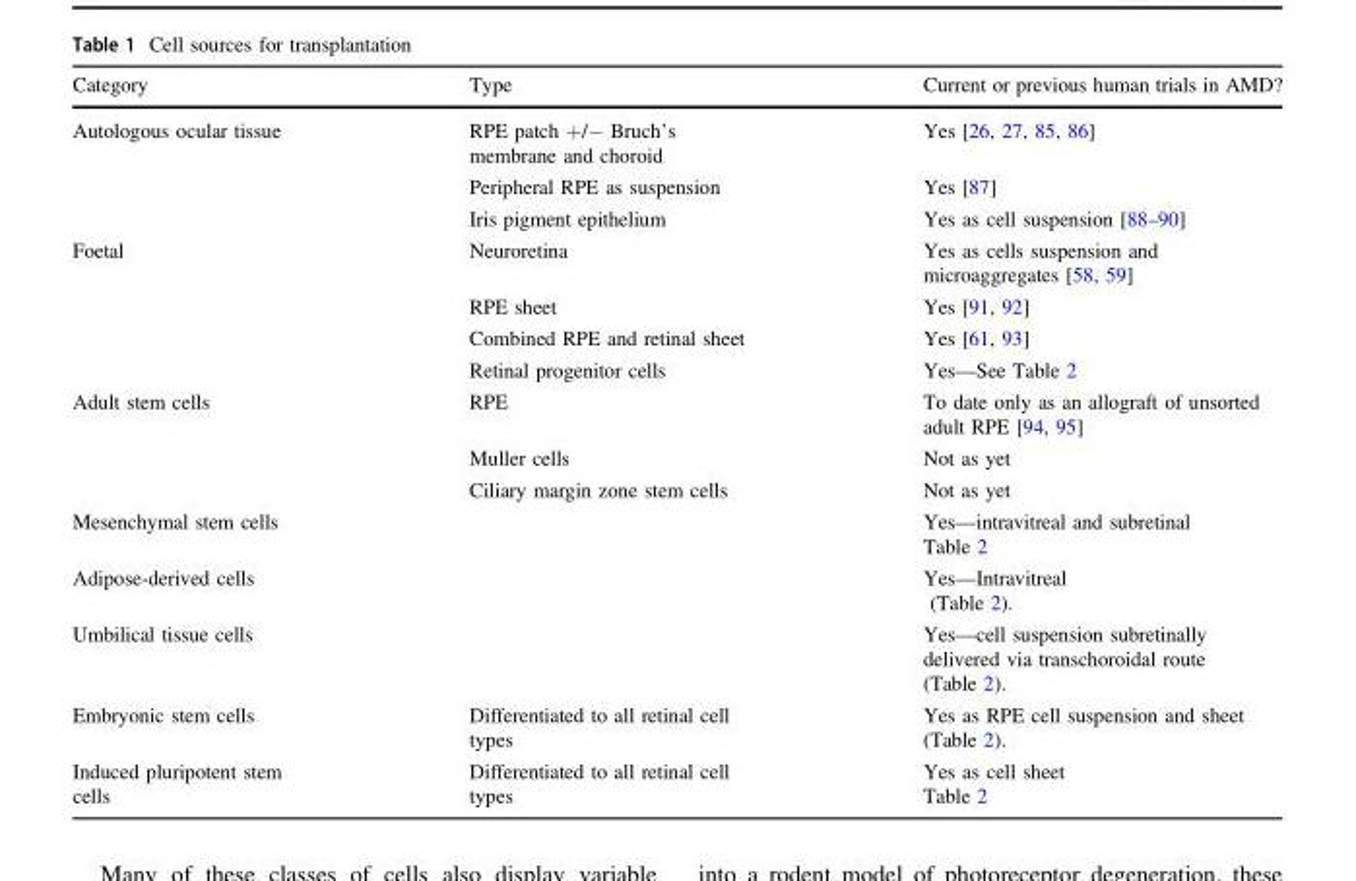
<table><thead><tr><td>Category</td><td>Type</td><td>Current or previous human trials in AMD?</td></tr></thead><tbody><tr><td rowspan="3">Autologous ocular tissue</td><td>RPE patch +/− Bruch’s membrane and choroid</td><td>Yes [26, 27, 85, 86]</td></tr><tr><td>Peripheral RPE as suspension</td><td>Yes [87]</td></tr><tr><td>Iris pigment epithelium</td><td>Yes as cell suspension [88–90]</td></tr><tr><td rowspan="4">Foetal</td><td>Neuroretina</td><td>Yes as cells suspension and microaggregates [58, 59]</td></tr><tr><td>RPE sheet</td><td>Yes [91, 92]</td></tr><tr><td>Combined RPE and retinal sheet</td><td>Yes [61, 93]</td></tr><tr><td>Retinal progenitor cells</td><td>Yes—See Table 2</td></tr><tr><td rowspan="3">Adult stem cells</td><td>RPE</td><td>To date only as an allograft of unsorted adult RPE [94, 95]</td></tr><tr><td>Muller cells</td><td>Not as yet</td></tr><tr><td>Ciliary margin zone stem cells</td><td>Not as yet</td></tr><tr><td>Mesenchymal stem cells</td><td></td><td>Yes—intravitreal and subretinal Table 2</td></tr><tr><td>Adipose-derived cells</td><td></td><td>Yes—Intravitreal (Table 2).</td></tr><tr><td>Umbilical tissue cells</td><td></td><td>Yes—cell suspension subretinally delivered via transchoroidal route (Table 2).</td></tr><tr><td>Embryonic stem cells</td><td>Differentiated to all retinal cell types</td><td>Yes as RPE cell suspension and sheet (Table 2).</td></tr><tr><td>Induced pluripotent stem cells</td><td>Differentiated to all retinal cell types</td><td>Yes as cell sheet Table 2</td></tr></tbody></table>